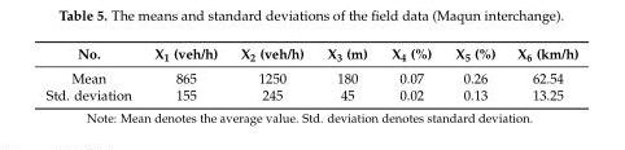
<table><thead><tr><td>No.</td><td>X<sub>1</sub> (veh/h)</td><td>X<sub>2</sub> (veh/h)</td><td>X<sub>3</sub> (m)</td><td>X<sub>4</sub> (%)</td><td>X<sub>5</sub> (%)</td><td>X<sub>6</sub> (km/h)</td></tr></thead><tbody><tr><td>Mean</td><td>865</td><td>1250</td><td>180</td><td>0.07</td><td>0.26</td><td>62.54</td></tr><tr><td>Std. deviation</td><td>155</td><td>245</td><td>45</td><td>0.02</td><td>0.13</td><td>13.25</td></tr></tbody></table>